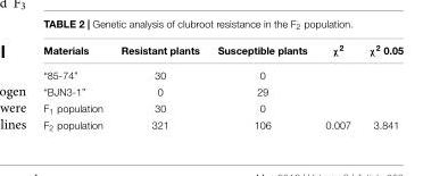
<table><thead><tr><td>Materials</td><td>Resistant plants</td><td>Susceptible plants</td><td>χ<sup>2</sup></td><td>χ<sup>2</sup> 0.05</td></tr></thead><tbody><tr><td>“85-74”</td><td>30</td><td>0</td><td></td><td></td></tr><tr><td>“BJN3-1”</td><td>0</td><td>29</td><td></td><td></td></tr><tr><td>F<sub>1</sub> population</td><td>30</td><td>0</td><td></td><td></td></tr><tr><td>F<sub>2</sub> population</td><td>321</td><td>106</td><td>0.007</td><td>3.841</td></tr></tbody></table>